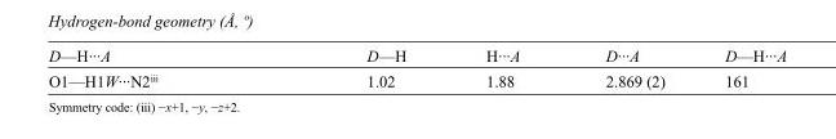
<table><tbody><tr><td>D—H···A</td><td>D—H</td><td>H···A</td><td>D···A</td><td>D—H···A</td></tr><tr><td>O1—H1W···N2<sup>iii</sup></td><td>1.02</td><td>1.88</td><td>2.869 (2)</td><td>161</td></tr></tbody></table>